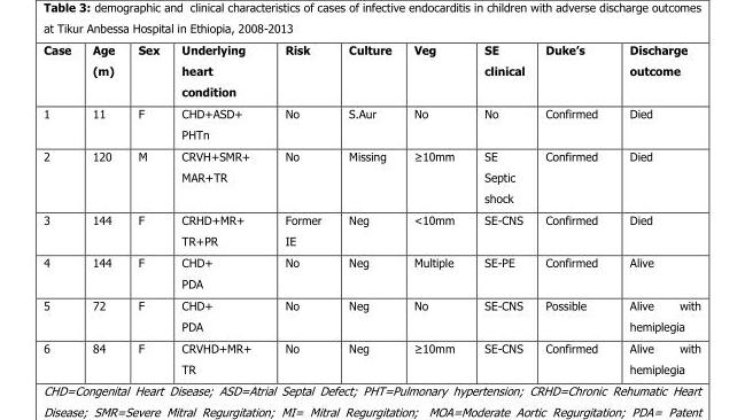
<table><thead><tr><td>Case</td><td>Age (m)</td><td>Sex</td><td>Underlying heart condition</td><td>Risk</td><td>Culture</td><td>Veg</td><td>SE clinical</td><td>Duke’s</td><td>Discharge outcome</td></tr></thead><tbody><tr><td>1</td><td>11</td><td>F</td><td>CHD+ASD+ PHTn</td><td>No</td><td>S.Aur</td><td>No</td><td>No</td><td>Confirmed</td><td>Died</td></tr><tr><td>2</td><td>120</td><td>M</td><td>CRVH+SMR+ MAR+TR</td><td>No</td><td>Missing</td><td>≥10mm</td><td>SE Septic shock</td><td>Confirmed</td><td>Died</td></tr><tr><td>3</td><td>144</td><td>F</td><td>CRHD+MR+ TR+PR</td><td>Former IE</td><td>Neg</td><td>&lt;10mm</td><td>SE-CNS</td><td>Confirmed</td><td>Died</td></tr><tr><td>4</td><td>144</td><td>F</td><td>CHD+ PDA</td><td>No</td><td>Neg</td><td>Multiple</td><td>SE-PE</td><td>Confirmed</td><td>Alive</td></tr><tr><td>5</td><td>72</td><td>F</td><td>CHD+ PDA</td><td>No</td><td>Neg</td><td>No</td><td>SE-CNS</td><td>Possible</td><td>Alive with hemiplegia</td></tr><tr><td>6</td><td>84</td><td>F</td><td>CRVHD+MR+ TR</td><td>No</td><td>Neg</td><td>≥10mm</td><td>SE-CNS</td><td>Confirmed</td><td>Alive with hemiplegia</td></tr></tbody></table>